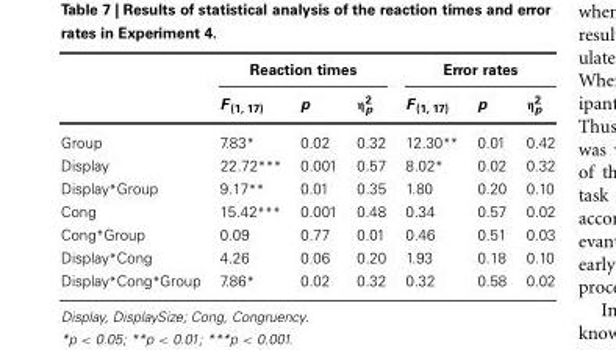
<table><thead><tr><td rowspan="2"></td><td colspan="3">Reaction times</td><td colspan="3">Error rates</td></tr><tr><td>F <sub>(1, 17)</sub></td><td>p</td><td>η<sup>2</sup> <sub>p</sub></td><td>F <sub>(1, 17)</sub></td><td>p</td><td>η<sup>2</sup> <sub>p</sub></td></tr></thead><tbody><tr><td>Group</td><td>7.83*</td><td>0.02</td><td>0.32</td><td>12.30**</td><td>0.01</td><td>0.42</td></tr><tr><td>Display</td><td>22.72***</td><td>0.001</td><td>0.57</td><td>8.02*</td><td>0.02</td><td>0.32</td></tr><tr><td>Display*Group</td><td>9.17**</td><td>0.01</td><td>0.35</td><td>1.80</td><td>0.20</td><td>0.10</td></tr><tr><td>Cong</td><td>15.42***</td><td>0.001</td><td>0.48</td><td>0.34</td><td>0.57</td><td>0.02</td></tr><tr><td>Cong*Group</td><td>0.09</td><td>0.77</td><td>0.01</td><td>0.46</td><td>0.51</td><td>0.03</td></tr><tr><td>Display*Cong</td><td>4.26</td><td>0.06</td><td>0.20</td><td>1.93</td><td>0.18</td><td>0.10</td></tr><tr><td>Display*Cong*Group</td><td>7.86*</td><td>0.02</td><td>0.32</td><td>0.32</td><td>0.58</td><td>0.02</td></tr></tbody></table>